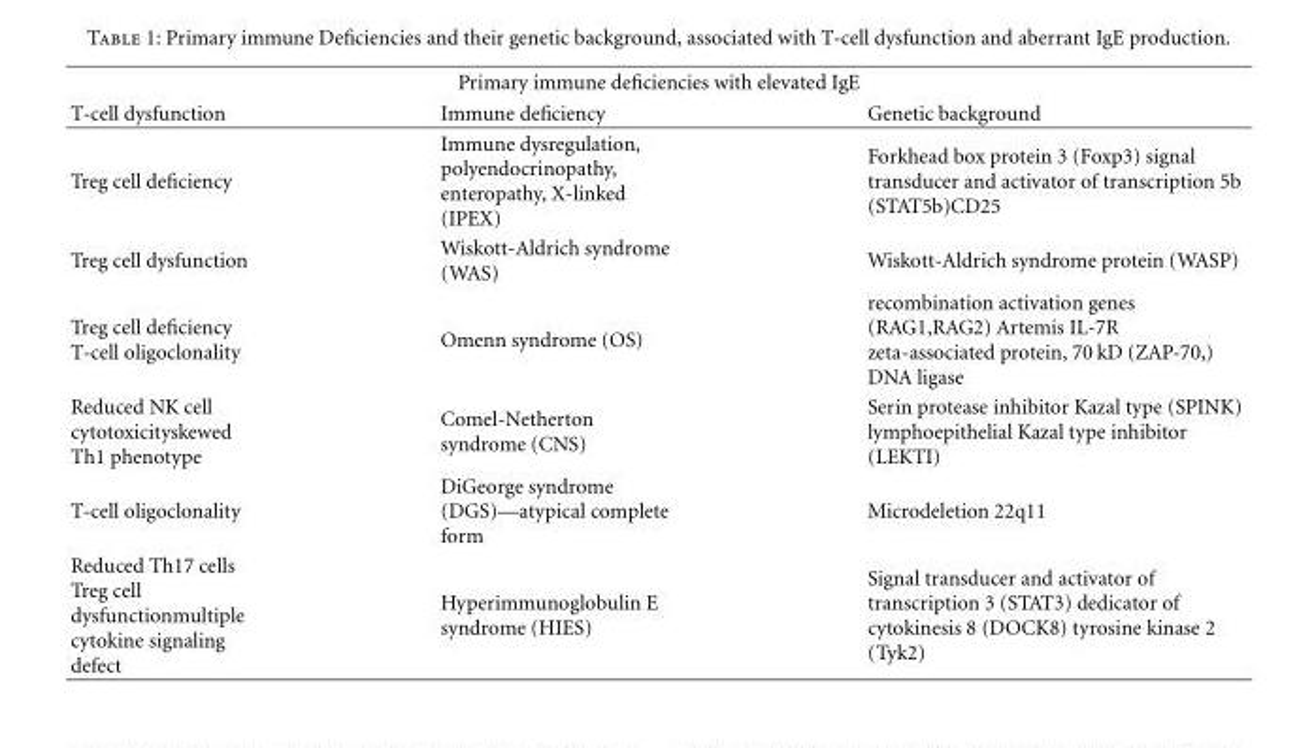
<table><thead><tr><td colspan="3">Primary immune deficiencies with elevated IgE</td></tr><tr><td>T-cell dysfunction</td><td>Immune deficiency</td><td>Genetic background</td></tr></thead><tbody><tr><td>Treg cell deficiency</td><td>Immune dysregulation, polyendocrinopathy, enteropathy, X-linked (IPEX)</td><td>Forkhead box protein 3 (Foxp3) signal transducer and activator of transcription 5b (STAT5b)CD25</td></tr><tr><td>Treg cell dysfunction</td><td>Wiskott-Aldrich syndrome (WAS)</td><td>Wiskott-Aldrich syndrome protein (WASP)</td></tr><tr><td>Treg cell deficiency T-cell oligoclonality</td><td>Omenn syndrome (OS)</td><td>recombination activation genes (RAG1,RAG2) Artemis IL-7R zeta-associated protein, 70 kD (ZAP-70,) DNA ligase</td></tr><tr><td>Reduced NK cell cytotoxicityskewed Th1 phenotype</td><td>Comel-Netherton syndrome (CNS)</td><td>Serin protease inhibitor Kazal type (SPINK) lymphoepithelial Kazal type inhibitor (LEKTI)</td></tr><tr><td>T-cell oligoclonality</td><td>DiGeorge syndrome (DGS)—atypical complete form</td><td>Microdeletion 22q11</td></tr><tr><td>Reduced Th17 cells Treg cell dysfunctionmultiple cytokine signaling defect</td><td>Hyperimmunoglobulin E syndrome (HIES)</td><td>Signal transducer and activator of transcription 3 (STAT3) dedicator of cytokinesis 8 (DOCK8) tyrosine kinase 2 (Tyk2)</td></tr></tbody></table>